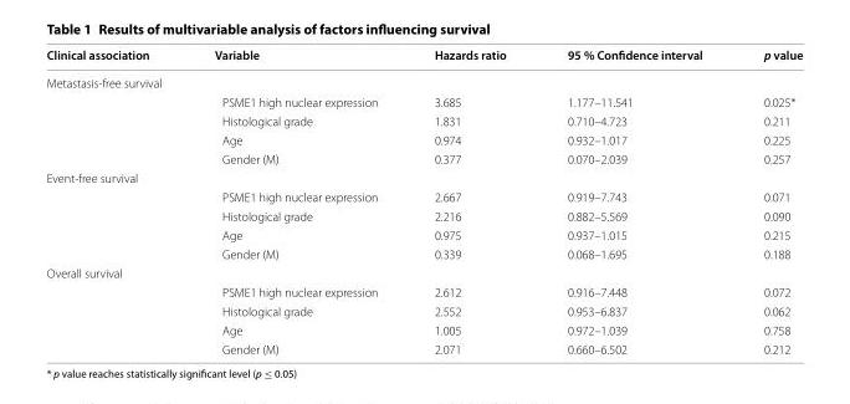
<table><thead><tr><td>Clinical association</td><td>Variable</td><td>Hazards ratio</td><td>95 % Confidence interval</td><td>p value</td></tr></thead><tbody><tr><td colspan="5">Metastasis‑free survival</td></tr><tr><td></td><td>PSME1 high nuclear expression</td><td>3.685</td><td>1.177–11.541</td><td>0.025*</td></tr><tr><td></td><td>Histological grade</td><td>1.831</td><td>0.710–4.723</td><td>0.211</td></tr><tr><td></td><td>Age</td><td>0.974</td><td>0.932–1.017</td><td>0.225</td></tr><tr><td></td><td>Gender (M)</td><td>0.377</td><td>0.070–2.039</td><td>0.257</td></tr><tr><td colspan="5">Event‑free survival</td></tr><tr><td></td><td>PSME1 high nuclear expression</td><td>2.667</td><td>0.919–7.743</td><td>0.071</td></tr><tr><td></td><td>Histological grade</td><td>2.216</td><td>0.882–5.569</td><td>0.090</td></tr><tr><td></td><td>Age</td><td>0.975</td><td>0.937–1.015</td><td>0.215</td></tr><tr><td></td><td>Gender (M)</td><td>0.339</td><td>0.068–1.695</td><td>0.188</td></tr><tr><td colspan="5">Overall survival</td></tr><tr><td></td><td>PSME1 high nuclear expression</td><td>2.612</td><td>0.916–7.448</td><td>0.072</td></tr><tr><td></td><td>Histological grade</td><td>2.552</td><td>0.953–6.837</td><td>0.062</td></tr><tr><td></td><td>Age</td><td>1.005</td><td>0.972–1.039</td><td>0.758</td></tr><tr><td></td><td>Gender (M)</td><td>2.071</td><td>0.660–6.502</td><td>0.212</td></tr></tbody></table>